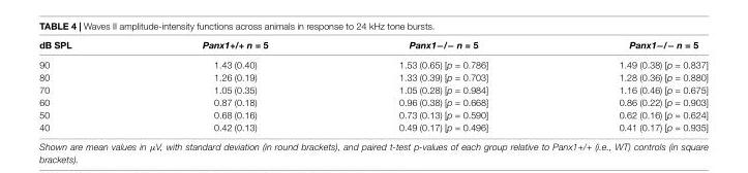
<table><thead><tr><td>dB SPL</td><td>Panx1+/+ n = 5</td><td>Panx1−/− n = 5</td><td>Panx1−/− n = 5</td></tr></thead><tbody><tr><td>90</td><td>1.43 (0.40)</td><td>1.53 (0.65) [p = 0.786]</td><td>1.49 (0.38) [p = 0.837]</td></tr><tr><td>80</td><td>1.26 (0.19)</td><td>1.33 (0.39) [p = 0.703]</td><td>1.28 (0.36) [p = 0.880]</td></tr><tr><td>70</td><td>1.05 (0.35)</td><td>1.05 (0.28) [p = 0.984]</td><td>1.16 (0.46) [p = 0.675]</td></tr><tr><td>60</td><td>0.87 (0.18)</td><td>0.96 (0.38) [p = 0.668]</td><td>0.86 (0.22) [p = 0.903]</td></tr><tr><td>50</td><td>0.68 (0.16)</td><td>0.73 (0.13) [p = 0.590]</td><td>0.62 (0.16) [p = 0.624]</td></tr><tr><td>40</td><td>0.42 (0.13)</td><td>0.49 (0.17) [p = 0.496]</td><td>0.41 (0.17) [p = 0.935]</td></tr></tbody></table>